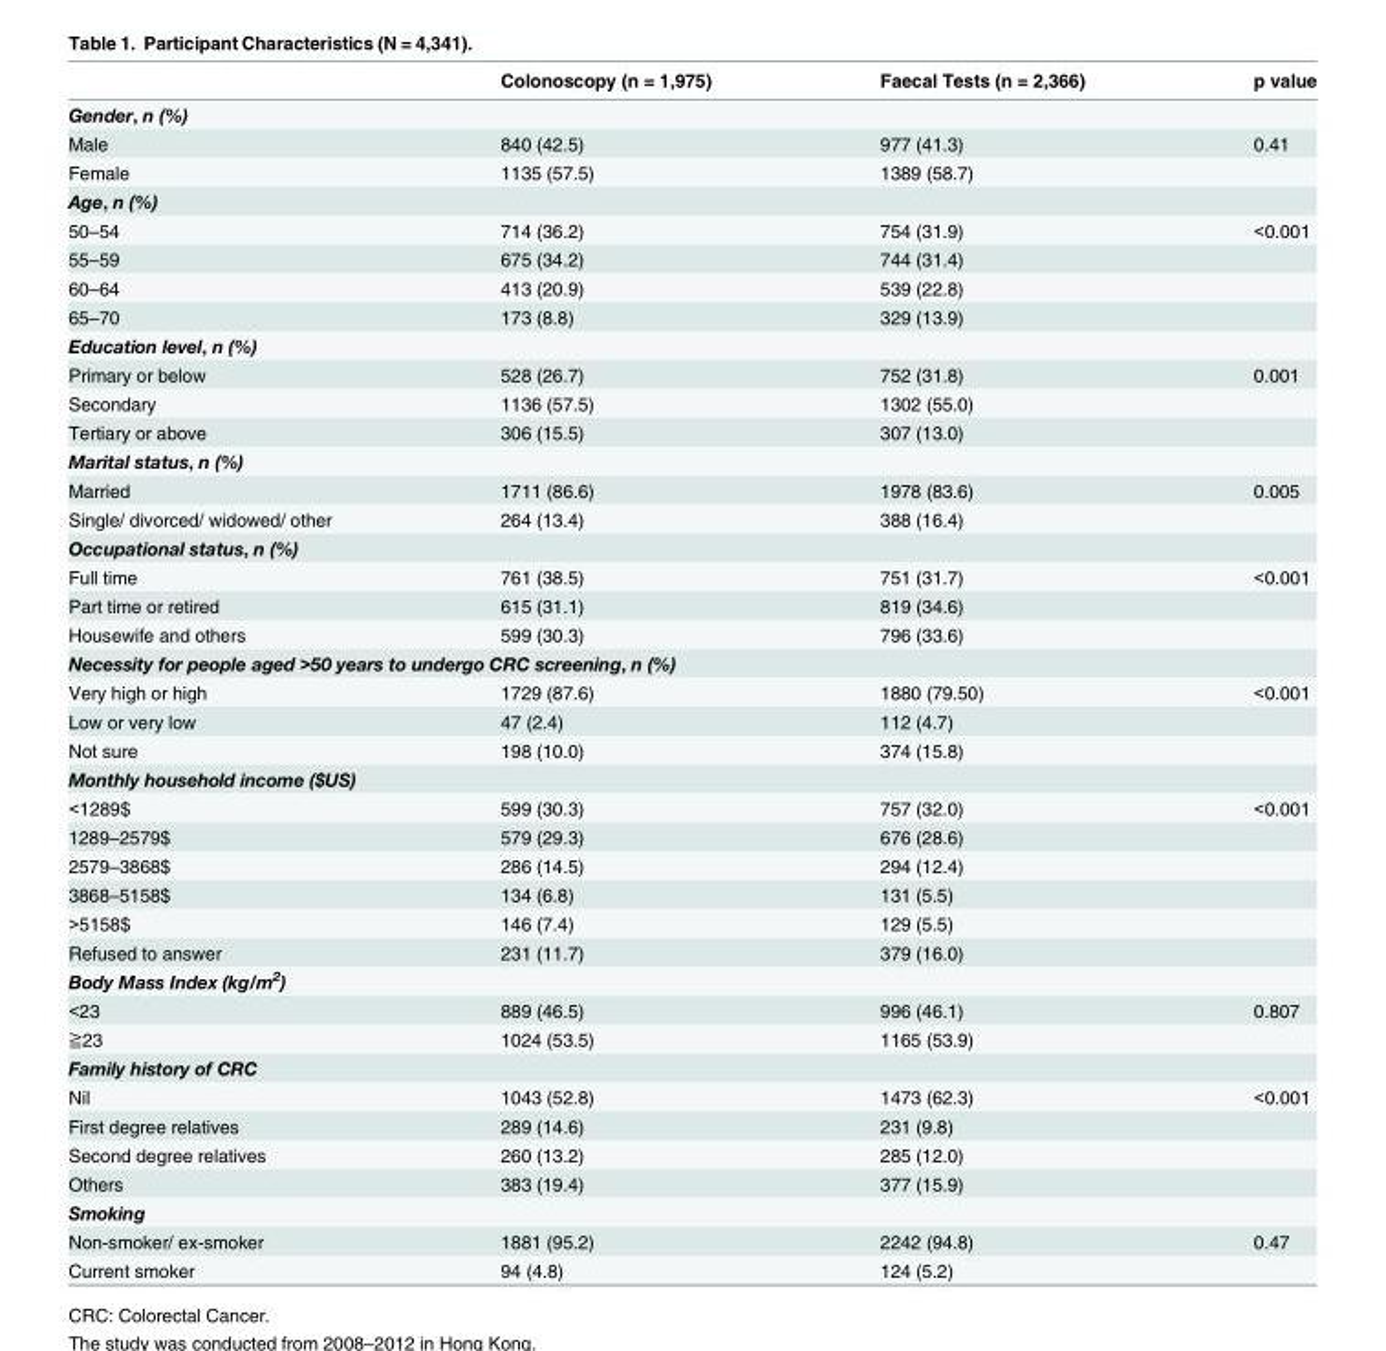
<table><thead><tr><td></td><td>Colonoscopy (n = 1,975)</td><td>Faecal Tests (n = 2,366)</td><td>p value</td></tr></thead><tbody><tr><td colspan="4">Gender, n (%)</td></tr><tr><td>Male</td><td>840 (42.5)</td><td>977 (41.3)</td><td>0.41</td></tr><tr><td>Female</td><td>1135 (57.5)</td><td>1389 (58.7)</td><td></td></tr><tr><td colspan="4">Age, n (%)</td></tr><tr><td>50–54</td><td>714 (36.2)</td><td>754 (31.9)</td><td>&lt;0.001</td></tr><tr><td>55–59</td><td>675 (34.2)</td><td>744 (31.4)</td><td></td></tr><tr><td>60–64</td><td>413 (20.9)</td><td>539 (22.8)</td><td></td></tr><tr><td>65–70</td><td>173 (8.8)</td><td>329 (13.9)</td><td></td></tr><tr><td colspan="4">Education level, n (%)</td></tr><tr><td>Primary or below</td><td>528 (26.7)</td><td>752 (31.8)</td><td>0.001</td></tr><tr><td>Secondary</td><td>1136 (57.5)</td><td>1302 (55.0)</td><td></td></tr><tr><td>Tertiary or above</td><td>306 (15.5)</td><td>307 (13.0)</td><td></td></tr><tr><td colspan="4">Marital status, n (%)</td></tr><tr><td>Married</td><td>1711 (86.6)</td><td>1978 (83.6)</td><td>0.005</td></tr><tr><td>Single/ divorced/ widowed/ other</td><td>264 (13.4)</td><td>388 (16.4)</td><td></td></tr><tr><td colspan="4">Occupational status, n (%)</td></tr><tr><td>Full time</td><td>761 (38.5)</td><td>751 (31.7)</td><td>&lt;0.001</td></tr><tr><td>Part time or retired</td><td>615 (31.1)</td><td>819 (34.6)</td><td></td></tr><tr><td>Housewife and others</td><td>599 (30.3)</td><td>796 (33.6)</td><td></td></tr><tr><td colspan="4">Necessity for people aged &gt;50 years to undergo CRC screening, n (%)</td></tr><tr><td>Very high or high</td><td>1729 (87.6)</td><td>1880 (79.50)</td><td>&lt;0.001</td></tr><tr><td>Low or very low</td><td>47 (2.4)</td><td>112 (4.7)</td><td></td></tr><tr><td>Not sure</td><td>198 (10.0)</td><td>374 (15.8)</td><td></td></tr><tr><td colspan="4">Monthly household income ($US)</td></tr><tr><td>&lt;1289$</td><td>599 (30.3)</td><td>757 (32.0)</td><td>&lt;0.001</td></tr><tr><td>1289–2579$</td><td>579 (29.3)</td><td>676 (28.6)</td><td></td></tr><tr><td>2579–3868$</td><td>286 (14.5)</td><td>294 (12.4)</td><td></td></tr><tr><td>3868–5158$</td><td>134 (6.8)</td><td>131 (5.5)</td><td></td></tr><tr><td>&gt;5158$</td><td>146 (7.4)</td><td>129 (5.5)</td><td></td></tr><tr><td>Refused to answer</td><td>231 (11.7)</td><td>379 (16.0)</td><td></td></tr><tr><td colspan="4">Body Mass Index (kg/m<sup>2</sup>)</td></tr><tr><td>&lt;23</td><td>889 (46.5)</td><td>996 (46.1)</td><td>0.807</td></tr><tr><td>≧23</td><td>1024 (53.5)</td><td>1165 (53.9)</td><td></td></tr><tr><td colspan="4">Family history of CRC</td></tr><tr><td>Nil</td><td>1043 (52.8)</td><td>1473 (62.3)</td><td>&lt;0.001</td></tr><tr><td>First degree relatives</td><td>289 (14.6)</td><td>231 (9.8)</td><td></td></tr><tr><td>Second degree relatives</td><td>260 (13.2)</td><td>285 (12.0)</td><td></td></tr><tr><td>Others</td><td>383 (19.4)</td><td>377 (15.9)</td><td></td></tr><tr><td colspan="4">Smoking</td></tr><tr><td>Non-smoker/ ex-smoker</td><td>1881 (95.2)</td><td>2242 (94.8)</td><td>0.47</td></tr><tr><td>Current smoker</td><td>94 (4.8)</td><td>124 (5.2)</td><td></td></tr></tbody></table>